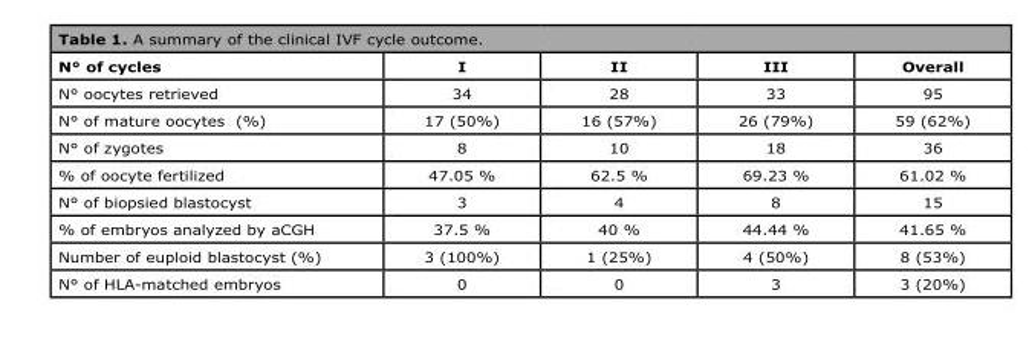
<table><thead><tr><td>N° of cycles</td><td>I</td><td>II</td><td>III</td><td>Overall</td></tr></thead><tbody><tr><td>N° oocytes retrieved</td><td>34</td><td>28</td><td>33</td><td>95</td></tr><tr><td>N° of mature oocytes (%)</td><td>17 (50%)</td><td>16 (57%)</td><td>26 (79%)</td><td>59 (62%)</td></tr><tr><td>N° of zygotes</td><td>8</td><td>10</td><td>18</td><td>36</td></tr><tr><td>% of oocyte fertilized</td><td>47.05 %</td><td>62.5 %</td><td>69.23 %</td><td>61.02 %</td></tr><tr><td>N° of biopsied blastocyst</td><td>3</td><td>4</td><td>8</td><td>15</td></tr><tr><td>% of embryos analyzed by aCGH</td><td>37.5 %</td><td>40 %</td><td>44.44 %</td><td>41.65 %</td></tr><tr><td>Number of euploid blastocyst (%)</td><td>3 (100%)</td><td>1 (25%)</td><td>4 (50%)</td><td>8 (53%)</td></tr><tr><td>N° of HLA-matched embryos</td><td>0</td><td>0</td><td>3</td><td>3 (20%)</td></tr></tbody></table>